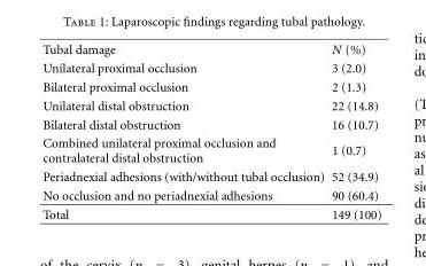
<table><tbody><tr><td>Tubal damage</td><td>N (%)</td></tr><tr><td>Unilateral proximal occlusion</td><td>3 (2.0)</td></tr><tr><td>Bilateral proximal occlusion</td><td>2 (1.3)</td></tr><tr><td>Unilateral distal obstruction</td><td>22 (14.8)</td></tr><tr><td>Bilateral distal obstruction</td><td>16 (10.7)</td></tr><tr><td>Combined unilateral proximal occlusion and contralateral distal obstruction</td><td>1 (0.7)</td></tr><tr><td>Periadnexial adhesions (with/without tubal occlusion)</td><td>52 (34.9)</td></tr><tr><td>No occlusion and no periadnexial adhesions</td><td>90 (60.4)</td></tr><tr><td>Total</td><td>149 (100)</td></tr></tbody></table>